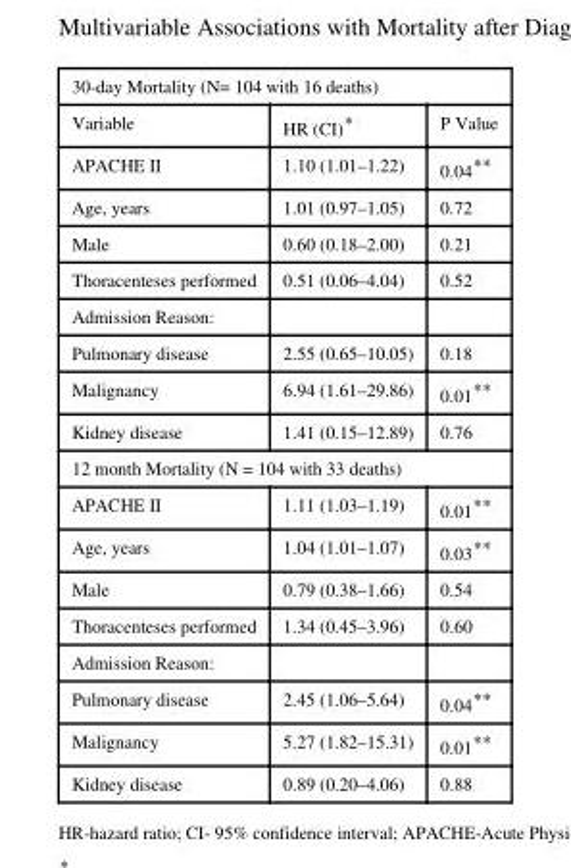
<table><tbody><tr><td colspan="3">30-day Mortality (N= 104 with 16 deaths)</td></tr><tr><td>Variable</td><td>HR (CI)*</td><td>P Value</td></tr><tr><td>APACHE II</td><td>1.10 (1.01–1.22)</td><td>0.04**</td></tr><tr><td>Age, years</td><td>1.01 (0.97–1.05)</td><td>0.72</td></tr><tr><td>Male</td><td>0.60 (0.18–2.00)</td><td>0.21</td></tr><tr><td>Thoracenteses performed</td><td>0.51 (0.06–4.04)</td><td>0.52</td></tr><tr><td colspan="3">Admission Reason:</td></tr><tr><td>Pulmonary disease</td><td>2.55 (0.65–10.05)</td><td>0.18</td></tr><tr><td>Malignancy</td><td>6.94 (1.61–29.86)</td><td>0.01**</td></tr><tr><td>Kidney disease</td><td>1.41 (0.15–12.89)</td><td>0.76</td></tr><tr><td colspan="3">12 month Mortality (N = 104 with 33 deaths)</td></tr><tr><td>APACHE II</td><td>1.11 (1.03–1.19)</td><td>0.01**</td></tr><tr><td>Age, years</td><td>1.04 (1.01–1.07)</td><td>0.03**</td></tr><tr><td>Male</td><td>0.79 (0.38–1.66)</td><td>0.54</td></tr><tr><td>Thoracenteses performed</td><td>1.34 (0.45–3.96)</td><td>0.60</td></tr><tr><td colspan="3">Admission Reason:</td></tr><tr><td>Pulmonary disease</td><td>2.45 (1.06–5.64)</td><td>0.04**</td></tr><tr><td>Malignancy</td><td>5.27 (1.82–15.31)</td><td>0.01**</td></tr><tr><td>Kidney disease</td><td>0.89 (0.20–4.06)</td><td>0.88</td></tr></tbody></table>